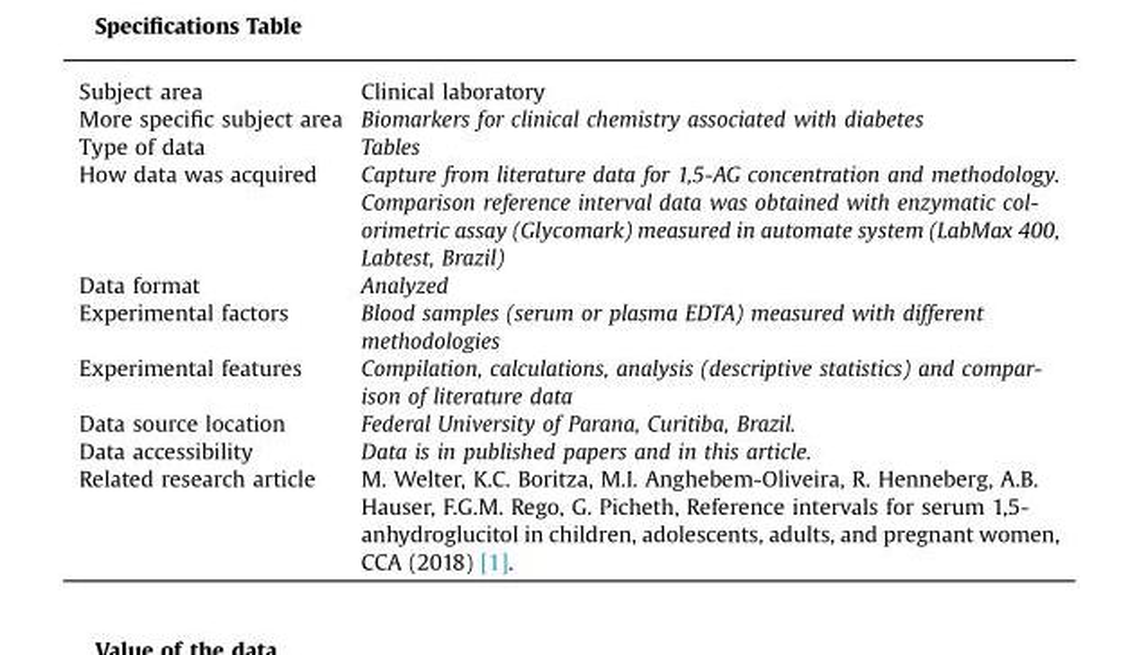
<table><thead><tr><td>Subject area</td><td>Clinical laboratory</td></tr></thead><tbody><tr><td>More specific subject area</td><td>Biomarkers for clinical chemistry associated with diabetes</td></tr><tr><td>Type of data</td><td>Tables</td></tr><tr><td>How data was acquired</td><td>Capture from literature data for 1,5-AG concentration and methodology. Comparison reference interval data was obtained with enzymatic col- orimetric assay (Glycomark) measured in automate system (LabMax 400, Labtest, Brazil)</td></tr><tr><td>Data format</td><td>Analyzed</td></tr><tr><td>Experimental factors</td><td>Blood samples (serum or plasma EDTA) measured with different methodologies</td></tr><tr><td>Experimental features</td><td>Compilation, calculations, analysis (descriptive statistics) and compar- ison of literature data</td></tr><tr><td>Data source location</td><td>Federal University of Parana, Curitiba, Brazil.</td></tr><tr><td>Data accessibility</td><td>Data is in published papers and in this article.</td></tr><tr><td>Related research article</td><td>M. Welter, K.C. Boritza, M.I. Anghebem-Oliveira, R. Henneberg, A.B. Hauser, F.G.M. Rego, G. Picheth, Reference intervals for serum 1,5- anhydroglucitol in children, adolescents, adults, and pregnant women, CCA (2018) [1].</td></tr></tbody></table>